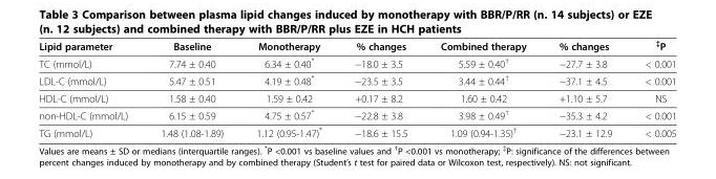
<table><thead><tr><td>Lipid parameter</td><td>Baseline</td><td>Monotherapy</td><td>% changes</td><td>Combined therapy</td><td>% changes</td><td>{{P</td></tr></thead><tbody><tr><td>TC (mmol/L)</td><td>7.74 ± 0.40</td><td>6.34 ± 0.40*</td><td>−18.0 ± 3.5</td><td>5.59 ± 0.40<sup>†</sup></td><td>−27.7 ± 3.8</td><td>&lt; 0.001</td></tr><tr><td>LDL-C (mmol/L)</td><td>5.47 ± 0.51</td><td>4.19 ± 0.48*</td><td>−23.5 ± 3.5</td><td>3.44 ± 0.44<sup>†</sup></td><td>−37.1 ± 4.5</td><td>&lt; 0.001</td></tr><tr><td>HDL-C (mmol/L)</td><td>1.58 ± 0.40</td><td>1.59 ± 0.42</td><td>+0.17 ± 8.2</td><td>1.60 ± 0.42</td><td>+1.10 ± 5.7</td><td>NS</td></tr><tr><td>non-HDL-C (mmol/L)</td><td>6.15 ± 0.59</td><td>4.75 ± 0.57*</td><td>−22.8 ± 3.8</td><td>3.98 ± 0.49<sup>†</sup></td><td>−35.3 ± 4.2</td><td>&lt; 0.001</td></tr><tr><td>TG (mmol/L)</td><td>1.48 (1.08-1.89)</td><td>1.12 (0.95-1.47)*</td><td>−18.6 ± 15.5</td><td>1.09 (0.94-1.35)<sup>†</sup></td><td>−23.1 ± 12.9</td><td>&lt; 0.005</td></tr></tbody></table>